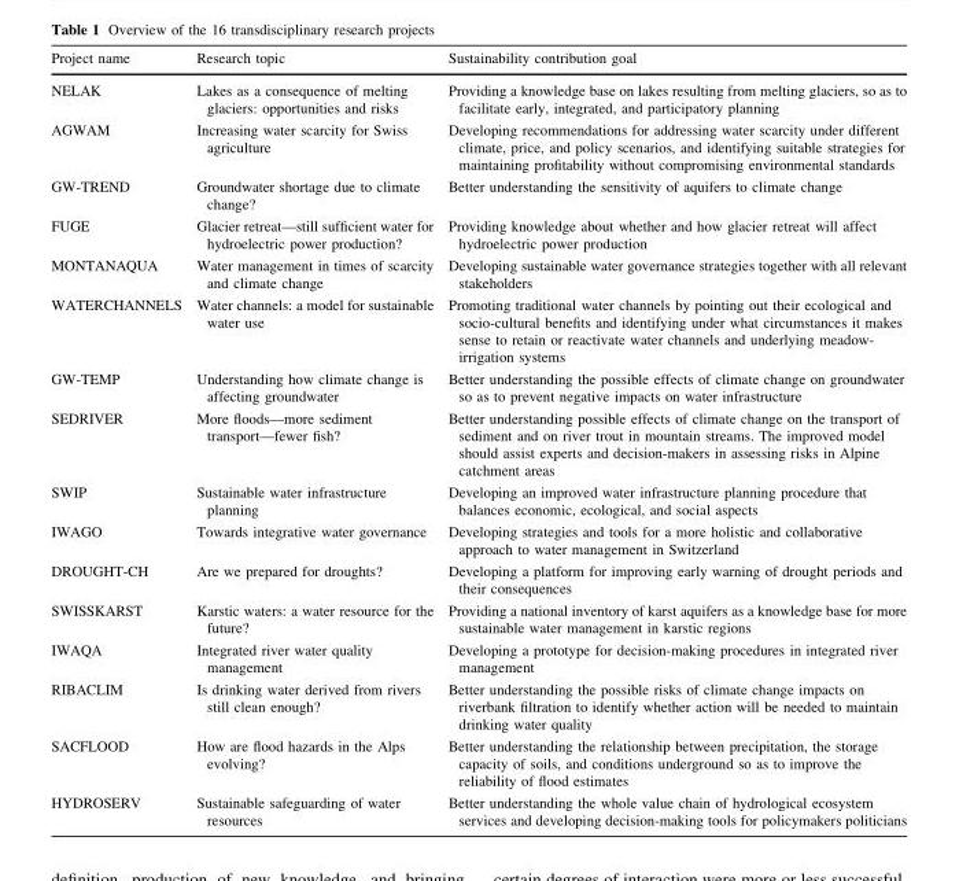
<table><thead><tr><td>Project name</td><td>Research topic</td><td>Sustainability contribution goal</td></tr></thead><tbody><tr><td>NELAK</td><td>Lakes as a consequence of melting glaciers: opportunities and risks</td><td>Providing a knowledge base on lakes resulting from melting glaciers, so as to facilitate early, integrated, and participatory planning</td></tr><tr><td>AGWAM</td><td>Increasing water scarcity for Swiss agriculture</td><td>Developing recommendations for addressing water scarcity under different climate, price, and policy scenarios, and identifying suitable strategies for maintaining profitability without compromising environmental standards</td></tr><tr><td>GW-TREND</td><td>Groundwater shortage due to climate change?</td><td>Better understanding the sensitivity of aquifers to climate change</td></tr><tr><td>FUGE</td><td>Glacier retreat—still sufficient water for hydroelectric power production?</td><td>Providing knowledge about whether and how glacier retreat will affect hydroelectric power production</td></tr><tr><td>MONTANAQUA</td><td>Water management in times of scarcity and climate change</td><td>Developing sustainable water governance strategies together with all relevant stakeholders</td></tr><tr><td>WATERCHANNELS</td><td>Water channels: a model for sustainable water use</td><td>Promoting traditional water channels by pointing out their ecological and socio-cultural benefits and identifying under what circumstances it makes sense to retain or reactivate water channels and underlying meadow- irrigation systems</td></tr><tr><td>GW-TEMP</td><td>Understanding how climate change is affecting groundwater</td><td>Better understanding the possible effects of climate change on groundwater so as to prevent negative impacts on water infrastructure</td></tr><tr><td>SEDRIVER</td><td>More floods—more sediment transport—fewer fish?</td><td>Better understanding possible effects of climate change on the transport of sediment and on river trout in mountain streams. The improved model should assist experts and decision-makers in assessing risks in Alpine catchment areas</td></tr><tr><td>SWIP</td><td>Sustainable water infrastructure planning</td><td>Developing an improved water infrastructure planning procedure that balances economic, ecological, and social aspects</td></tr><tr><td>IWAGO</td><td>Towards integrative water governance</td><td>Developing strategies and tools for a more holistic and collaborative approach to water management in Switzerland</td></tr><tr><td>DROUGHT-CH</td><td>Are we prepared for droughts?</td><td>Developing a platform for improving early warning of drought periods and their consequences</td></tr><tr><td>SWISSKARST</td><td>Karstic waters: a water resource for the future?</td><td>Providing a national inventory of karst aquifers as a knowledge base for more sustainable water management in karstic regions</td></tr><tr><td>IWAQA</td><td>Integrated river water quality management</td><td>Developing a prototype for decision-making procedures in integrated river management</td></tr><tr><td>RIBACLIM</td><td>Is drinking water derived from rivers still clean enough?</td><td>Better understanding the possible risks of climate change impacts on riverbank filtration to identify whether action will be needed to maintain drinking water quality</td></tr><tr><td>SACFLOOD</td><td>How are flood hazards in the Alps evolving?</td><td>Better understanding the relationship between precipitation, the storage capacity of soils, and conditions underground so as to improve the reliability of flood estimates</td></tr><tr><td>HYDROSERV</td><td>Sustainable safeguarding of water resources</td><td>Better understanding the whole value chain of hydrological ecosystem services and developing decision-making tools for policymakers politicians</td></tr></tbody></table>